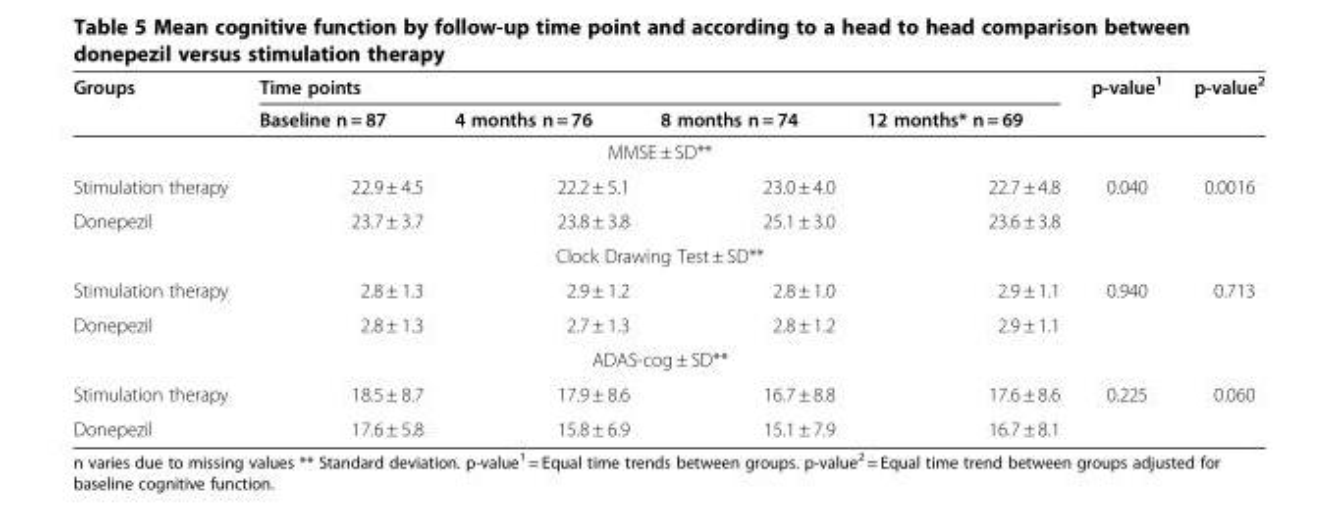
<table><thead><tr><td rowspan="2">Groups</td><td colspan="4">Time points</td><td rowspan="2">p-value<sup>1</sup></td><td rowspan="2">p-value<sup>2</sup></td></tr><tr><td>Baseline n = 87</td><td>4 months n = 76</td><td>8 months n = 74</td><td>12 months* n = 69</td></tr></thead><tbody><tr><td></td><td colspan="4">MMSE ± SD**</td><td></td><td></td></tr><tr><td>Stimulation therapy</td><td>22.9 ± 4.5</td><td>22.2 ± 5.1</td><td>23.0 ± 4.0</td><td>22.7 ± 4.8</td><td>0.040</td><td>0.0016</td></tr><tr><td rowspan="2">Donepezil</td><td>23.7 ± 3.7</td><td>23.8 ± 3.8</td><td>25.1 ± 3.0</td><td>23.6 ± 3.8</td><td></td><td></td></tr><tr><td colspan="4">Clock Drawing Test ± SD**</td><td></td><td></td></tr><tr><td>Stimulation therapy</td><td>2.8 ± 1.3</td><td>2.9 ± 1.2</td><td>2.8 ± 1.0</td><td>2.9 ± 1.1</td><td>0.940</td><td>0.713</td></tr><tr><td rowspan="2">Donepezil</td><td>2.8 ± 1.3</td><td>2.7 ± 1.3</td><td>2.8 ± 1.2</td><td>2.9 ± 1.1</td><td></td><td></td></tr><tr><td colspan="4">ADAS-cog ± SD**</td><td></td><td></td></tr><tr><td>Stimulation therapy</td><td>18.5 ± 8.7</td><td>17.9 ± 8.6</td><td>16.7 ± 8.8</td><td>17.6 ± 8.6</td><td>0.225</td><td>0.060</td></tr><tr><td>Donepezil</td><td>17.6 ± 5.8</td><td>15.8 ± 6.9</td><td>15.1 ± 7.9</td><td>16.7 ± 8.1</td><td></td><td></td></tr></tbody></table>